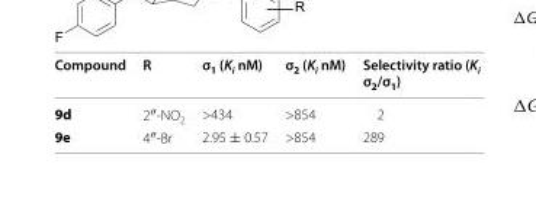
<table><thead><tr><td>Compound</td><td>R</td><td>σ<sub>1</sub> (K<sub>i</sub> nM)</td><td>σ<sub>2</sub> (K<sub>i</sub> nM)</td><td>Selectivity ratio (K<sub>i</sub> σ<sub>2</sub>/σ<sub>1</sub>)</td></tr></thead><tbody><tr><td>9d</td><td>2″‑NO<sub>2</sub></td><td>&gt;434</td><td>&gt;854</td><td>2</td></tr><tr><td>9e</td><td>4″‑Br</td><td>2.95 ± 0.57</td><td>&gt;854</td><td>289</td></tr></tbody></table>